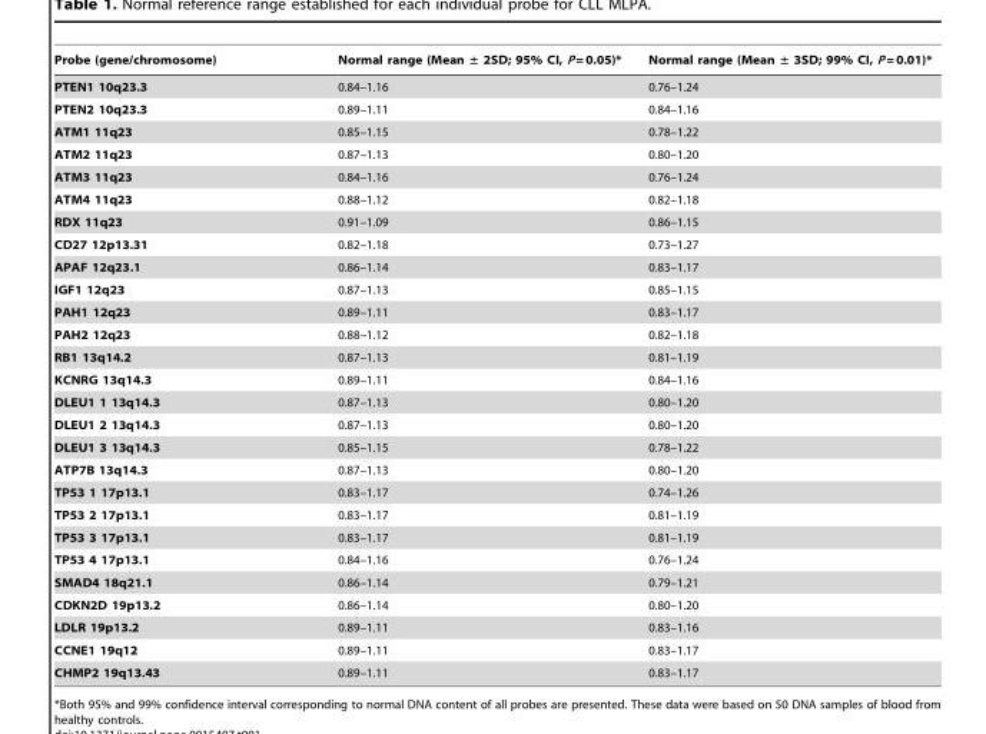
<table><thead><tr><td>Probe (gene/chromosome)</td><td>Normal range (Mean ± 2SD; 95% CI, P = 0.05)*</td><td>Normal range (Mean ± 3SD; 99% CI, P = 0.01)*</td></tr></thead><tbody><tr><td>PTEN1 10q23.3</td><td>0.84–1.16</td><td>0.76–1.24</td></tr><tr><td>PTEN2 10q23.3</td><td>0.89–1.11</td><td>0.84–1.16</td></tr><tr><td>ATM1 11q23</td><td>0.85–1.15</td><td>0.78–1.22</td></tr><tr><td>ATM2 11q23</td><td>0.87–1.13</td><td>0.80–1.20</td></tr><tr><td>ATM3 11q23</td><td>0.84–1.16</td><td>0.76–1.24</td></tr><tr><td>ATM4 11q23</td><td>0.88–1.12</td><td>0.82–1.18</td></tr><tr><td>RDX 11q23</td><td>0.91–1.09</td><td>0.86–1.15</td></tr><tr><td>CD27 12p13.31</td><td>0.82–1.18</td><td>0.73–1.27</td></tr><tr><td>APAF 12q23.1</td><td>0.86–1.14</td><td>0.83–1.17</td></tr><tr><td>IGF1 12q23</td><td>0.87–1.13</td><td>0.85–1.15</td></tr><tr><td>PAH1 12q23</td><td>0.89–1.11</td><td>0.83–1.17</td></tr><tr><td>PAH2 12q23</td><td>0.88–1.12</td><td>0.82–1.18</td></tr><tr><td>RB1 13q14.2</td><td>0.87–1.13</td><td>0.81–1.19</td></tr><tr><td>KCNRG 13q14.3</td><td>0.89–1.11</td><td>0.84–1.16</td></tr><tr><td>DLEU1 1 13q14.3</td><td>0.87–1.13</td><td>0.80–1.20</td></tr><tr><td>DLEU1 2 13q14.3</td><td>0.87–1.13</td><td>0.80–1.20</td></tr><tr><td>DLEU1 3 13q14.3</td><td>0.85–1.15</td><td>0.78–1.22</td></tr><tr><td>ATP7B 13q14.3</td><td>0.87–1.13</td><td>0.80–1.20</td></tr><tr><td>TP53 1 17p13.1</td><td>0.83–1.17</td><td>0.74–1.26</td></tr><tr><td>TP53 2 17p13.1</td><td>0.83–1.17</td><td>0.81–1.19</td></tr><tr><td>TP53 3 17p13.1</td><td>0.83–1.17</td><td>0.81–1.19</td></tr><tr><td>TP53 4 17p13.1</td><td>0.84–1.16</td><td>0.76–1.24</td></tr><tr><td>SMAD4 18q21.1</td><td>0.86–1.14</td><td>0.79–1.21</td></tr><tr><td>CDKN2D 19p13.2</td><td>0.86–1.14</td><td>0.80–1.20</td></tr><tr><td>LDLR 19p13.2</td><td>0.89–1.11</td><td>0.83–1.16</td></tr><tr><td>CCNE1 19q12</td><td>0.89–1.11</td><td>0.83–1.17</td></tr><tr><td>CHMP2 19q13.43</td><td>0.89–1.11</td><td>0.83–1.17</td></tr></tbody></table>